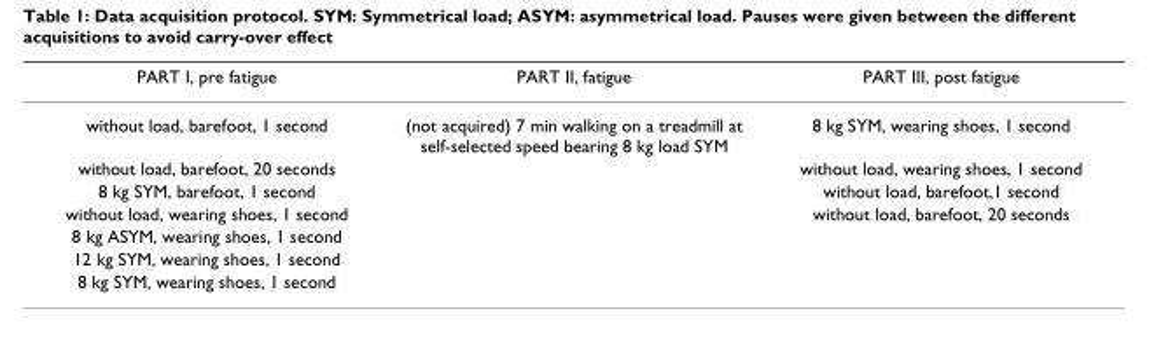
<table><thead><tr><td>PART I, pre fatigue</td><td>PART II, fatigue</td><td>PART III, post fatigue</td></tr></thead><tbody><tr><td>without load, barefoot, 1 second</td><td>(not acquired) 7 min walking on a treadmill at self-selected speed bearing 8 kg load SYM</td><td>8 kg SYM, wearing shoes, 1 second</td></tr><tr><td>without load, barefoot, 20 seconds</td><td></td><td>without load, wearing shoes, 1 second</td></tr><tr><td>8 kg SYM, barefoot, 1 second</td><td></td><td>without load, barefoot,1 second</td></tr><tr><td>without load, wearing shoes, 1 second</td><td></td><td>without load, barefoot, 20 seconds</td></tr><tr><td colspan="3">8 kg ASYM, wearing shoes, 1 second</td></tr><tr><td colspan="3">12 kg SYM, wearing shoes, 1 second</td></tr><tr><td>8 kg SYM, wearing shoes, 1 second</td><td></td><td></td></tr></tbody></table>